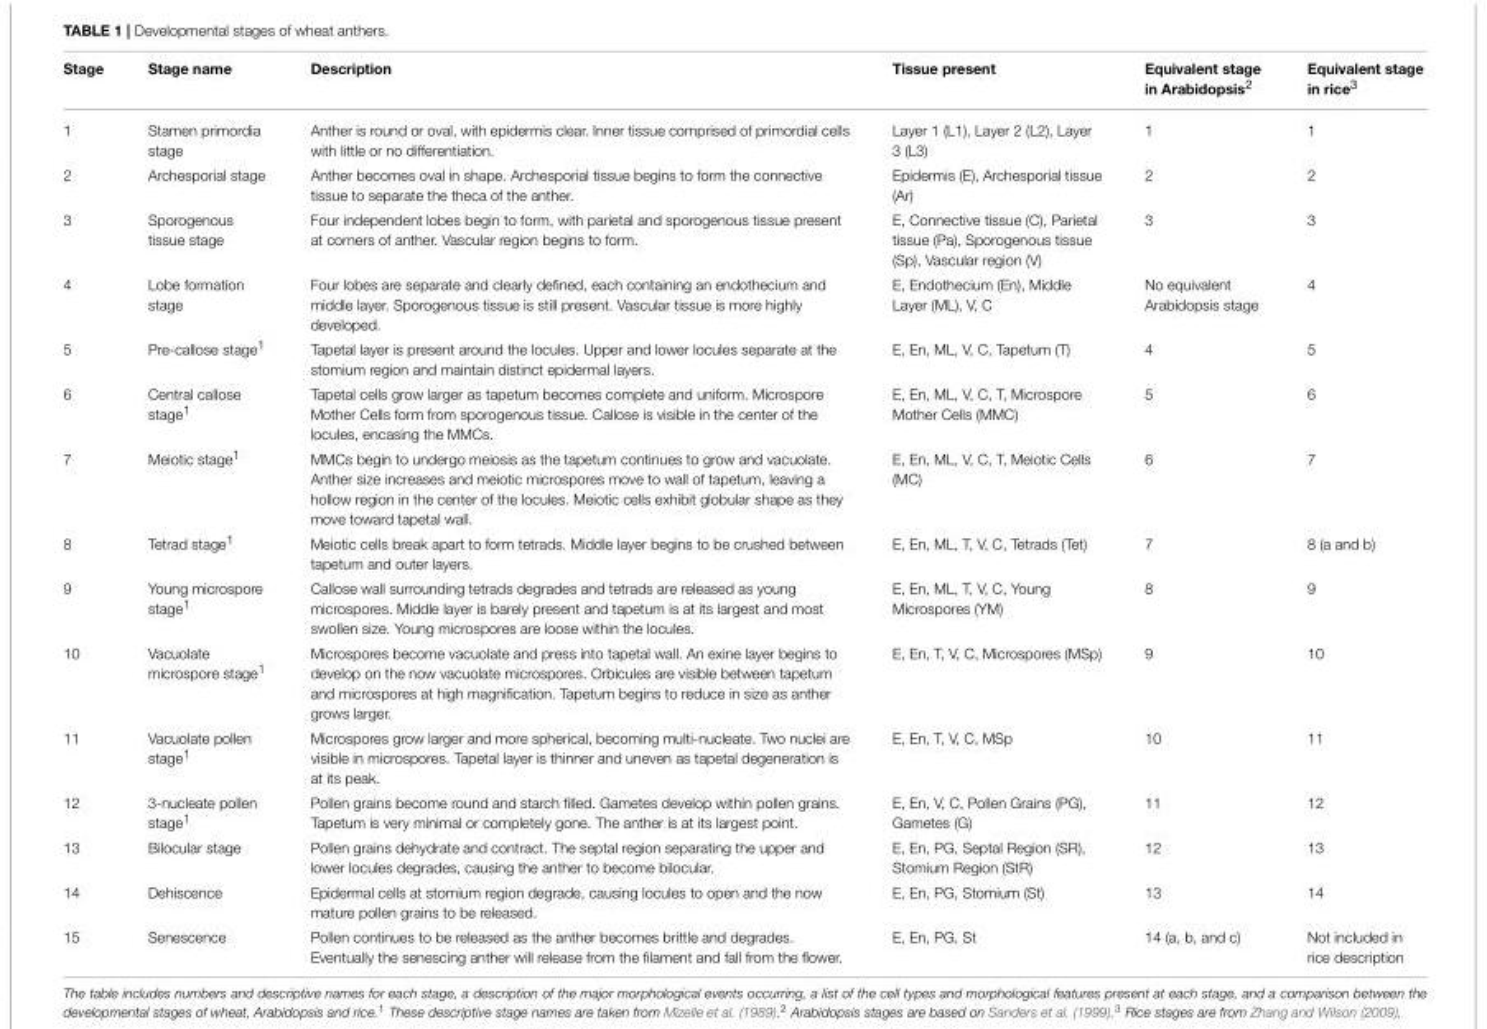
<table><thead><tr><td>Stage</td><td>Stage name</td><td>Description</td><td>Tissue present</td><td>Equivalent stage in Arabidopsis<sup>2</sup></td><td>Equivalent stage in rice<sup>3</sup></td></tr></thead><tbody><tr><td>1</td><td>Stamen primordia stage</td><td>Anther is round or oval, with epidermis clear. Inner tissue comprised of primordial cells with little or no differentiation.</td><td>Layer 1 (L1), Layer 2 (L2), Layer 3 (L3)</td><td>1</td><td>1</td></tr><tr><td>2</td><td>Archesporial stage</td><td>Anther becomes oval in shape. Archesporial tissue begins to form the connective tissue to separate the theca of the anther.</td><td>Epidermis (E), Archesporial tissue (Ar)</td><td>2</td><td>2</td></tr><tr><td>3</td><td>Sporogenous tissue stage</td><td>Four independent lobes begin to form, with parietal and sporogenous tissue present at corners of anther. Vascular region begins to form.</td><td>E, Connective tissue (C), Parietal tissue (Pa), Sporogenous tissue (Sp), Vascular region (V)</td><td>3</td><td>3</td></tr><tr><td>4</td><td>Lobe formation stage</td><td>Four lobes are separate and clearly defined, each containing an endothecium and middle layer. Sporogenous tissue is still present. Vascular tissue is more highly developed.</td><td>E, Endothecium (En), Middle Layer (ML), V, C</td><td>No equivalent Arabidopsis stage</td><td>4</td></tr><tr><td>5</td><td>Pre-callose stage<sup>1</sup></td><td>Tapetal layer is present around the locules. Upper and lower locules separate at the stomium region and maintain distinct epidermal layers.</td><td>E, En, ML, V, C, Tapetum (T)</td><td>4</td><td>5</td></tr><tr><td>6</td><td>Central callose stage<sup>1</sup></td><td>Tapetal cells grow larger as tapetum becomes complete and uniform. Microspore Mother Cells form from sporogenous tissue. Callose is visible in the center of the locules, encasing the MMCs.</td><td>E, En, ML, V, C, T, Microspore Mother Cells (MMC)</td><td>5</td><td>6</td></tr><tr><td>7</td><td>Meiotic stage<sup>1</sup></td><td>MMCs begin to undergo meiosis as the tapetum continues to grow and vacuolate. Anther size increases and meiotic microspores move to wall of tapetum, leaving a hollow region in the center of the locules. Meiotic cells exhibit globular shape as they move toward tapetal wall.</td><td>E, En, ML, V, C, T, Meiotic Cells (MC)</td><td>6</td><td>7</td></tr><tr><td>8</td><td>Tetrad stage<sup>1</sup></td><td>Meiotic cells break apart to form tetrads. Middle layer begins to be crushed between tapetum and outer layers.</td><td>E, En, ML, T, V, C, Tetrads (Tet)</td><td>7</td><td>8 (a and b)</td></tr><tr><td>9</td><td>Young microspore stage<sup>1</sup></td><td>Callose wall surrounding tetrads degrades and tetrads are released as young microspores. Middle layer is barely present and tapetum is at its largest and most swollen size. Young microspores are loose within the locules.</td><td>E, En, ML, T, V, C, Young Microspores (YM)</td><td>8</td><td>9</td></tr><tr><td>10</td><td>Vacuolate microspore stage<sup>1</sup></td><td>Microspores become vacuolate and press into tapetal wall. An exine layer begins to develop on the now vacuolate microspores. Orbicules are visible between tapetum and microspores at high magnification. Tapetum begins to reduce in size as anther grows larger.</td><td>E, En, T, V, C, Microspores (MSp)</td><td>9</td><td>10</td></tr><tr><td>11</td><td>Vacuolate pollen stage<sup>1</sup></td><td>Microspores grow larger and more spherical, becoming multi-nucleate. Two nuclei are visible in microspores. Tapetal layer is thinner and uneven as tapetal degeneration is at its peak.</td><td>E, En, T, V, C, MSp</td><td>10</td><td>11</td></tr><tr><td>12</td><td>3-nucleate pollen stage<sup>1</sup></td><td>Pollen grains become round and starch filled. Gametes develop within pollen grains. Tapetum is very minimal or completely gone. The anther is at its largest point.</td><td>E, En, V, C, Pollen Grains (PG), Gametes (G)</td><td>11</td><td>12</td></tr><tr><td>13</td><td>Bilocular stage</td><td>Pollen grains dehydrate and contract. The septal region separating the upper and lower locules degrades, causing the anther to become bilocular.</td><td>E, En, PG, Septal Region (SR), Stomium Region (StR)</td><td>12</td><td>13</td></tr><tr><td>14</td><td>Dehiscence</td><td>Epidermal cells at stomium region degrade, causing locules to open and the now mature pollen grains to be released.</td><td>E, En, PG, Stomium (St)</td><td>13</td><td>14</td></tr><tr><td>15</td><td>Senescence</td><td>Pollen continues to be released as the anther becomes brittle and degrades. Eventually the senescing anther will release from the filament and fall from the flower.</td><td>E, En, PG, St</td><td>14 (a, b, and c)</td><td>Not included in rice description</td></tr></tbody></table>